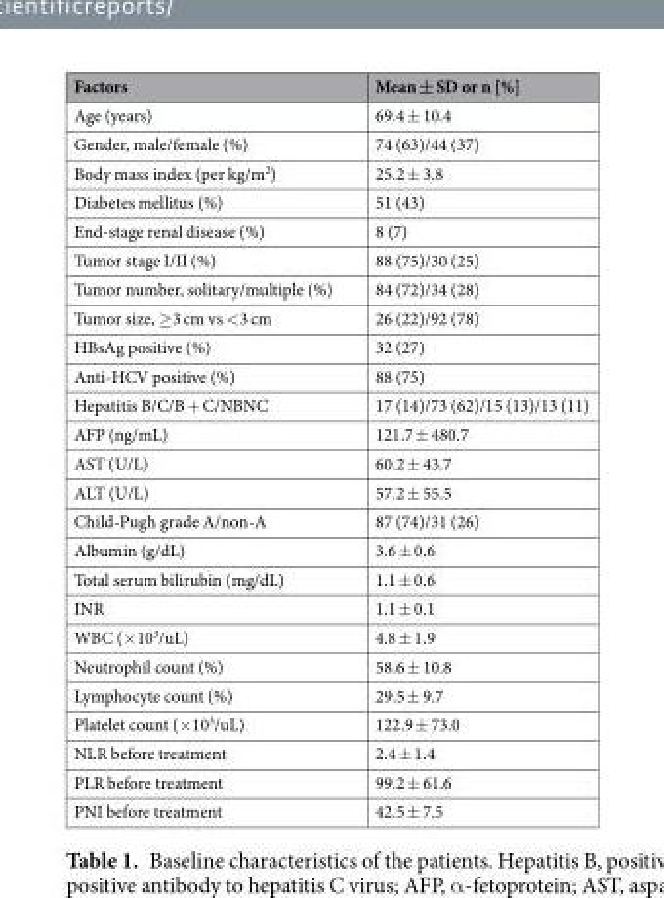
<table><thead><tr><td>Factors</td><td>Mean ± SD or n [%]</td></tr></thead><tbody><tr><td>Age (years)</td><td>69.4 ± 10.4</td></tr><tr><td>Gender, male/female (%)</td><td>74 (63)/44 (37)</td></tr><tr><td>Body mass index (per kg/m<sup>2</sup>)</td><td>25.2 ± 3.8</td></tr><tr><td>Diabetes mellitus (%)</td><td>51 (43)</td></tr><tr><td>End-stage renal disease (%)</td><td>8 (7)</td></tr><tr><td>Tumor stage I/II (%)</td><td>88 (75)/30 (25)</td></tr><tr><td>Tumor number, solitary/multiple (%)</td><td>84 (72)/34 (28)</td></tr><tr><td>Tumor size, ≥3 cm vs &lt;3 cm</td><td>26 (22)/92 (78)</td></tr><tr><td>HBsAg positive (%)</td><td>32 (27)</td></tr><tr><td>Anti-HCV positive (%)</td><td>88 (75)</td></tr><tr><td>Hepatitis B/C/B + C/NBNC</td><td>17 (14)/73 (62)/15 (13)/13 (11)</td></tr><tr><td>AFP (ng/mL)</td><td>121.7 ± 480.7</td></tr><tr><td>AST (U/L)</td><td>60.2 ± 43.7</td></tr><tr><td>ALT (U/L)</td><td>57.2 ± 55.5</td></tr><tr><td>Child-Pugh grade A/non-A</td><td>87 (74)/31 (26)</td></tr><tr><td>Albumin (g/dL)</td><td>3.6 ± 0.6</td></tr><tr><td>Total serum bilirubin (mg/dL)</td><td>1.1 ± 0.6</td></tr><tr><td>INR</td><td>1.1 ± 0.1</td></tr><tr><td>WBC (×10<sup>3</sup>/uL)</td><td>4.8 ± 1.9</td></tr><tr><td>Neutrophil count (%)</td><td>58.6 ± 10.8</td></tr><tr><td>Lymphocyte count (%)</td><td>29.5 ± 9.7</td></tr><tr><td>Platelet count (×10<sup>3</sup>/uL)</td><td>122.9 ± 73.0</td></tr><tr><td>NLR before treatment</td><td>2.4 ± 1.4</td></tr><tr><td>PLR before treatment</td><td>99.2 ± 61.6</td></tr><tr><td>PNI before treatment</td><td>42.5 ± 7.5</td></tr></tbody></table>